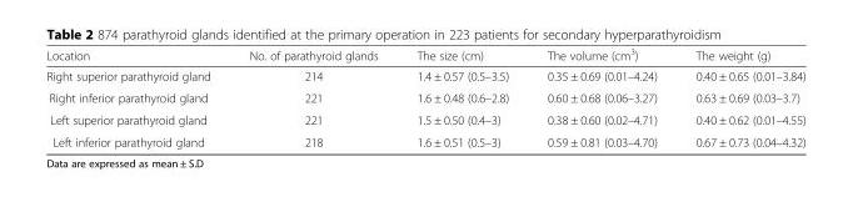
<table><thead><tr><td>Location</td><td>No. of parathyroid glands</td><td>The size (cm)</td><td>The volume (cm<sup>3</sup>)</td><td>The weight (g)</td></tr></thead><tbody><tr><td>Right superior parathyroid gland</td><td>214</td><td>1.4 ± 0.57 (0.5–3.5)</td><td>0.35 ± 0.69 (0.01–4.24)</td><td>0.40 ± 0.65 (0.01–3.84)</td></tr><tr><td>Right inferior parathyroid gland</td><td>221</td><td>1.6 ± 0.48 (0.6–2.8)</td><td>0.60 ± 0.68 (0.06–3.27)</td><td>0.63 ± 0.69 (0.03–3.7)</td></tr><tr><td>Left superior parathyroid gland</td><td>221</td><td>1.5 ± 0.50 (0.4–3)</td><td>0.38 ± 0.60 (0.02–4.71)</td><td>0.40 ± 0.62 (0.01–4.55)</td></tr><tr><td>Left inferior parathyroid gland</td><td>218</td><td>1.6 ± 0.51 (0.5–3)</td><td>0.59 ± 0.81 (0.03–4.70)</td><td>0.67 ± 0.73 (0.04–4.32)</td></tr></tbody></table>